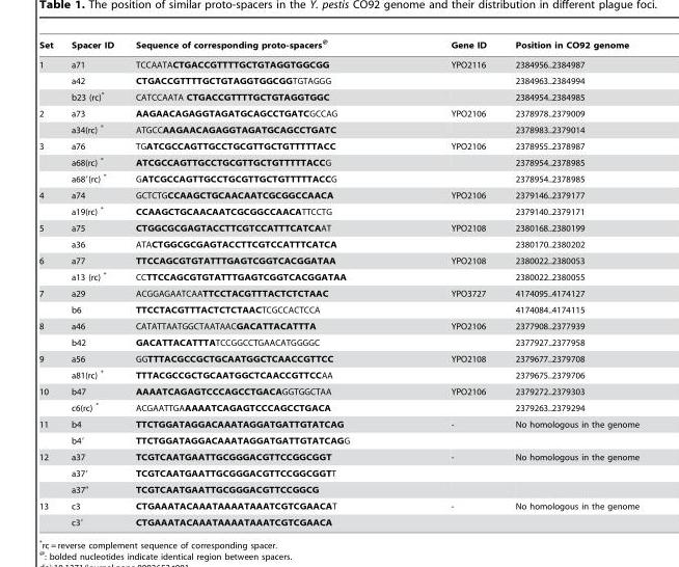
<table><thead><tr><td>Set</td><td>Spacer ID</td><td>Sequence of corresponding proto-spacers@</td><td>Gene ID</td><td>Position in CO92 genome</td></tr></thead><tbody><tr><td rowspan="3">1</td><td>a71</td><td>TCCAATACTGACCGTTTTGCTGTAGGTGGCGG</td><td>YPO2116</td><td>2384956..2384987</td></tr><tr><td>a42</td><td>CTGACCGTTTTGCTGTAGGTGGCGGTGTAGGG</td><td></td><td>2384963..2384994</td></tr><tr><td>b23 (rc)*</td><td>CATCCAATA CTGACCGTTTTGCTGTAGGTGGC</td><td></td><td>2384954..2384985</td></tr><tr><td rowspan="2">2</td><td>a73</td><td>AAGAACAGAGGTAGATGCAGCCTGATCGCCAG</td><td>YPO2106</td><td>2378978..2379009</td></tr><tr><td>a34(rc) *</td><td>ATGCCAAGAACAGAGGTAGATGCAGCCTGATC</td><td></td><td>2378983..2379014</td></tr><tr><td rowspan="3">3</td><td>a76</td><td>TGATCGCCAGTTGCCTGCGTTGCTGTTTTTACC</td><td>YPO2106</td><td>2378955..2378987</td></tr><tr><td>a68(rc) *</td><td>ATCGCCAGTTGCCTGCGTTGCTGTTTTTACCG</td><td></td><td>2378954..2378985</td></tr><tr><td>a68′(rc) *</td><td>GATCGCCAGTTGCCTGCGTTGCTGTTTTTACCG</td><td></td><td>2378954..2378985</td></tr><tr><td rowspan="2">4</td><td>a74</td><td>GCTCTGCCAAGCTGCAACAATCGCGGCCAACA</td><td>YPO2106</td><td>2379146..2379177</td></tr><tr><td>a19(rc) *</td><td>CCAAGCTGCAACAATCGCGGCCAACATTCCTG</td><td></td><td>2379140..2379171</td></tr><tr><td rowspan="2">5</td><td>a75</td><td>CTGGCGCGAGTACCTTCGTCCATTTCATCAAT</td><td>YPO2108</td><td>2380168..2380199</td></tr><tr><td>a36</td><td>ATACTGGCGCGAGTACCTTCGTCCATTTCATCA</td><td></td><td>2380170..2380202</td></tr><tr><td rowspan="2">6</td><td>a77</td><td>TTCCAGCGTGTATTTGAGTCGGTCACGGATAA</td><td>YPO2108</td><td>2380022..2380053</td></tr><tr><td>a13 (rc) *</td><td>CCTTCCAGCGTGTATTTGAGTCGGTCACGGATAA</td><td></td><td>2380022..2380055</td></tr><tr><td rowspan="2">7</td><td>a29</td><td>ACGGAGAATCAATTCCTACGTTTACTCTCTAAC</td><td>YPO3727</td><td>4174095..4174127</td></tr><tr><td>b6</td><td>TTCCTACGTTTACTCTCTAACTCGCCACTCCA</td><td></td><td>4174084..4174115</td></tr><tr><td rowspan="2">8</td><td>a46</td><td>CATATTAATGGCTAATAACGACATTACATTTA</td><td>YPO2106</td><td>2377908..2377939</td></tr><tr><td>b42</td><td>GACATTACATTTATCCGGCCTGAACATGGGGC</td><td></td><td>2377927..2377958</td></tr><tr><td rowspan="2">9</td><td>a56</td><td>GGTTTACGCCGCTGCAATGGCTCAACCGTTCC</td><td>YPO2108</td><td>2379677..2379708</td></tr><tr><td>a81(rc) *</td><td>TTTACGCCGCTGCAATGGCTCAACCGTTCCAA</td><td></td><td>2379675..2379706</td></tr><tr><td rowspan="2">10</td><td>b47</td><td>AAAATCAGAGTCCCAGCCTGACAGGTGGCTAA</td><td>YPO2106</td><td>2379272..2379303</td></tr><tr><td>c6(rc) *</td><td>ACGAATTGAAAAATCAGAGTCCCAGCCTGACA</td><td></td><td>2379263..2379294</td></tr><tr><td rowspan="2">11</td><td>b4</td><td>TTCTGGATAGGACAAATAGGATGATTGTATCAG</td><td>-</td><td>No homologous in the genome</td></tr><tr><td>b4′</td><td>TTCTGGATAGGACAAATAGGATGATTGTATCAGG</td><td></td><td></td></tr><tr><td rowspan="3">12</td><td>a37</td><td>TCGTCAATGAATTGCGGGACGTTCCGGCGGT</td><td>-</td><td>No homologous in the genome</td></tr><tr><td>a37′</td><td>TCGTCAATGAATTGCGGGACGTTCCGGCGGTT</td><td></td><td></td></tr><tr><td>a37″</td><td>TCGTCAATGAATTGCGGGACGTTCCGGCG</td><td></td><td></td></tr><tr><td rowspan="2">13</td><td>c3</td><td>CTGAAATACAAATAAAATAAATCGTCGAACAT</td><td>-</td><td>No homologous in the genome</td></tr><tr><td>c3′</td><td>CTGAAATACAAATAAAATAAATCGTCGAACA</td><td></td><td></td></tr></tbody></table>